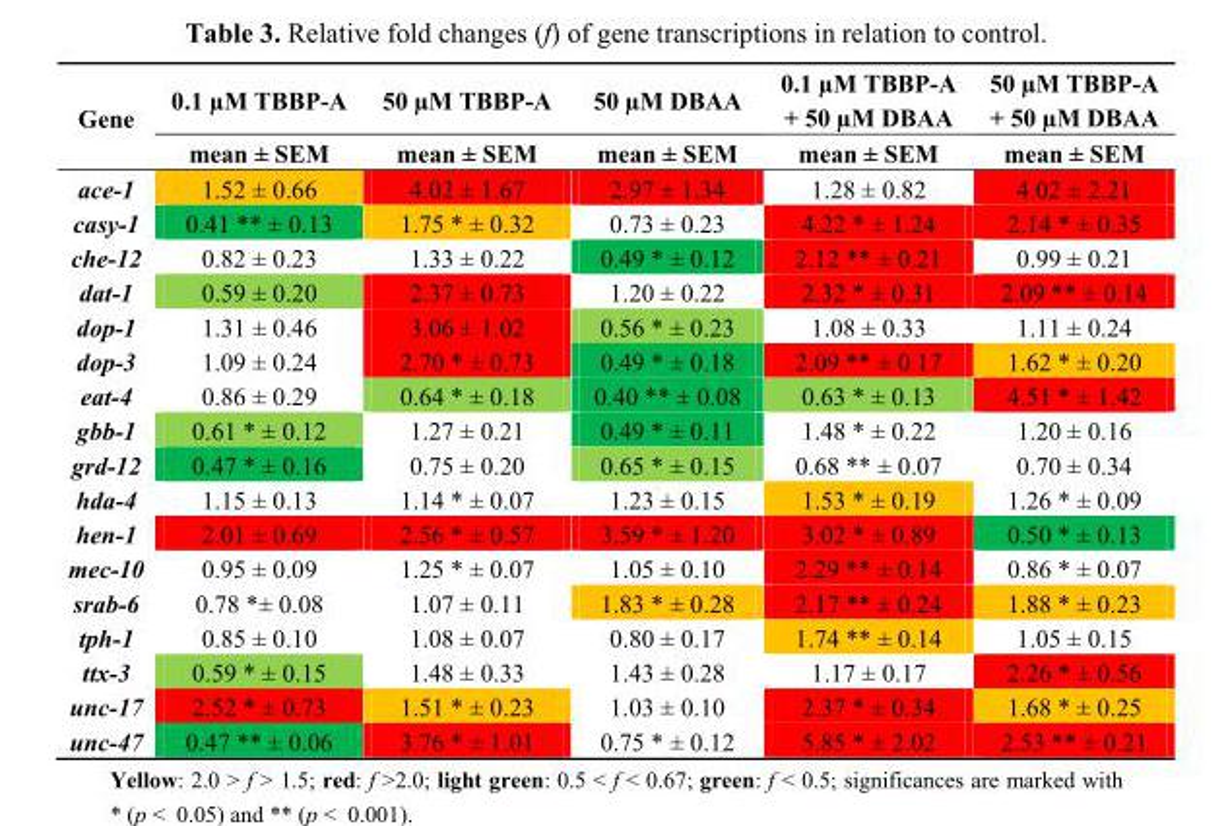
<table><thead><tr><td rowspan="2">Gene</td><td rowspan="2">0.1 µM TBBP-A mean ± SEM</td><td rowspan="2">50 µM TBBP-A mean ± SEM</td><td rowspan="2">50 µM DBAA mean ± SEM</td><td rowspan="2">0.1 µM TBBP-A + 50 µM DBAA mean ± SEM</td><td rowspan="2">50 µM TBBP-A + 50 µM DBAA mean ± SEM</td></tr><tr></tr></thead><tbody><tr><td>ace-1</td><td>1.52 ± 0.66</td><td>4.02 ± 1.67</td><td>2.97 ± 1.34</td><td>1.28 ± 0.82</td><td>4.02 ± 2.21</td></tr><tr><td>casy-1</td><td>0.41 ** ± 0.13</td><td>1.75 * ± 0.32</td><td>0.73 ± 0.23</td><td>4.22 * ± 1.24</td><td>2.14 * ± 0.35</td></tr><tr><td>che-12</td><td>0.82 ± 0.23</td><td>1.33 ± 0.22</td><td>0.49 * ± 0.12</td><td>2.12 ** ± 0.21</td><td>0.99 ± 0.21</td></tr><tr><td>dat-1</td><td>0.59 ± 0.20</td><td>2.37 ± 0.73</td><td>1.20 ± 0.22</td><td>2.32 * ± 0.31</td><td>2.09 ** ± 0.14</td></tr><tr><td>dop-1</td><td>1.31 ± 0.46</td><td>3.06 ± 1.02</td><td>0.56 * ± 0.23</td><td>1.08 ± 0.33</td><td>1.11 ± 0.24</td></tr><tr><td>dop-3</td><td>1.09 ± 0.24</td><td>2.70 * ± 0.73</td><td>0.49 * ± 0.18</td><td>2.09 ** ± 0.17</td><td>1.62 * ± 0.20</td></tr><tr><td>eat-4</td><td>0.86 ± 0.29</td><td>0.64 * ± 0.18</td><td>0.40 ** ± 0.08</td><td>0.63 * ± 0.13</td><td>4.51 * ± 1.42</td></tr><tr><td>gbb-1</td><td>0.61 * ± 0.12</td><td>1.27 ± 0.21</td><td>0.49 * ± 0.11</td><td>1.48 * ± 0.22</td><td>1.20 ± 0.16</td></tr><tr><td>grd-12</td><td>0.47 * ± 0.16</td><td>0.75 ± 0.20</td><td>0.65 * ± 0.15</td><td>0.68 ** ± 0.07</td><td>0.70 ± 0.34</td></tr><tr><td>hda-4</td><td>1.15 ± 0.13</td><td>1.14 * ± 0.07</td><td>1.23 ± 0.15</td><td>1.53 * ± 0.19</td><td>1.26 * ± 0.09</td></tr><tr><td>hen-1</td><td>2.01 ± 0.69</td><td>2.56 * ± 0.57</td><td>3.59 * ± 1.20</td><td>3.02 * ± 0.89</td><td>0.50 * ± 0.13</td></tr><tr><td>mec-10</td><td>0.95 ± 0.09</td><td>1.25 * ± 0.07</td><td>1.05 ± 0.10</td><td>2.29 ** ± 0.14</td><td>0.86 * ± 0.07</td></tr><tr><td>srab-6</td><td>0.78 *± 0.08</td><td>1.07 ± 0.11</td><td>1.83 * ± 0.28</td><td>2.17 ** ± 0.24</td><td>1.88 * ± 0.23</td></tr><tr><td>tph-1</td><td>0.85 ± 0.10</td><td>1.08 ± 0.07</td><td>0.80 ± 0.17</td><td>1.74 ** ± 0.14</td><td>1.05 ± 0.15</td></tr><tr><td>ttx-3</td><td>0.59 * ± 0.15</td><td>1.48 ± 0.33</td><td>1.43 ± 0.28</td><td>1.17 ± 0.17</td><td>2.26 * ± 0.56</td></tr><tr><td>unc-17</td><td>2.52 * ± 0.73</td><td>1.51 * ± 0.23</td><td>1.03 ± 0.10</td><td>2.37 * ± 0.34</td><td>1.68 * ± 0.25</td></tr><tr><td>unc-47</td><td>0.47 ** ± 0.06</td><td>3.76 * ± 1.01</td><td>0.75 * ± 0.12</td><td>5.85 * ± 2.02</td><td>2.53 ** ± 0.21</td></tr></tbody></table>